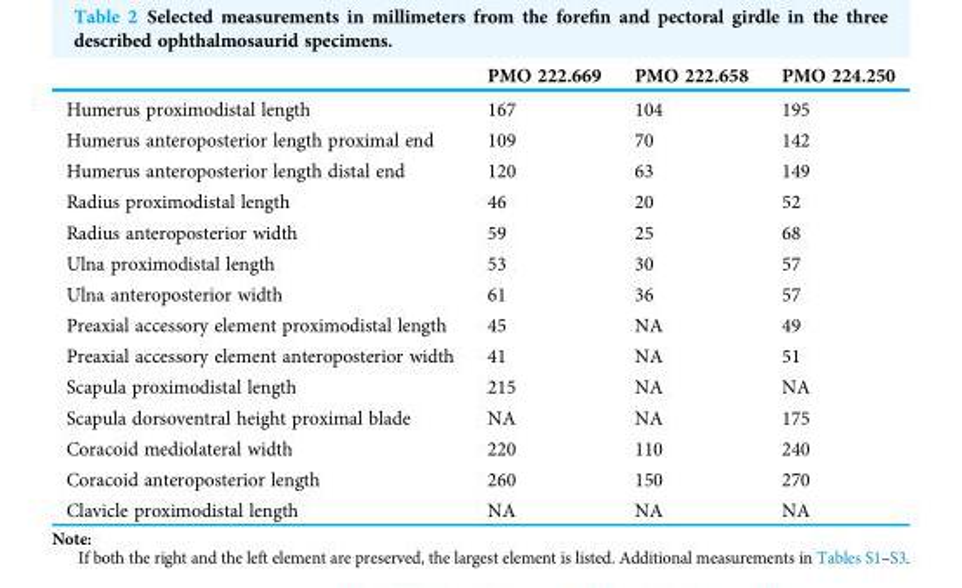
<table><thead><tr><td></td><td>PMO 222.669</td><td>PMO 222.658</td><td>PMO 224.250</td></tr></thead><tbody><tr><td>Humerus proximodistal length</td><td>167</td><td>104</td><td>195</td></tr><tr><td>Humerus anteroposterior length proximal end</td><td>109</td><td>70</td><td>142</td></tr><tr><td>Humerus anteroposterior length distal end</td><td>120</td><td>63</td><td>149</td></tr><tr><td>Radius proximodistal length</td><td>46</td><td>20</td><td>52</td></tr><tr><td>Radius anteroposterior width</td><td>59</td><td>25</td><td>68</td></tr><tr><td>Ulna proximodistal length</td><td>53</td><td>30</td><td>57</td></tr><tr><td>Ulna anteroposterior width</td><td>61</td><td>36</td><td>57</td></tr><tr><td>Preaxial accessory element proximodistal length</td><td>45</td><td>NA</td><td>49</td></tr><tr><td>Preaxial accessory element anteroposterior width</td><td>41</td><td>NA</td><td>51</td></tr><tr><td>Scapula proximodistal length</td><td>215</td><td>NA</td><td>NA</td></tr><tr><td>Scapula dorsoventral height proximal blade</td><td>NA</td><td>NA</td><td>175</td></tr><tr><td>Coracoid mediolateral width</td><td>220</td><td>110</td><td>240</td></tr><tr><td>Coracoid anteroposterior length</td><td>260</td><td>150</td><td>270</td></tr><tr><td>Clavicle proximodistal length</td><td>NA</td><td>NA</td><td>NA</td></tr></tbody></table>